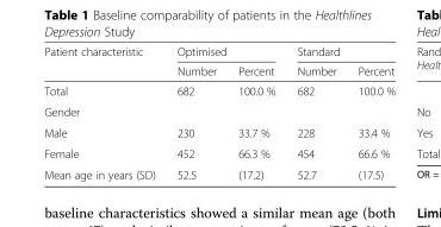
<table><thead><tr><td rowspan="2">Patient characteristic</td><td colspan="2">Optimised</td><td colspan="2">Standard</td></tr><tr><td>Number</td><td>Percent</td><td>Number</td><td>Percent</td></tr></thead><tbody><tr><td>Total</td><td>682</td><td>100.0 %</td><td>682</td><td>100.0 %</td></tr><tr><td colspan="5">Gender</td></tr><tr><td>Male</td><td>230</td><td>33.7 %</td><td>228</td><td>33.4 %</td></tr><tr><td>Female</td><td>452</td><td>66.3 %</td><td>454</td><td>66.6 %</td></tr><tr><td>Mean age in years (SD)</td><td>52.5</td><td>(17.2)</td><td>52.7</td><td>(17.5)</td></tr></tbody></table>